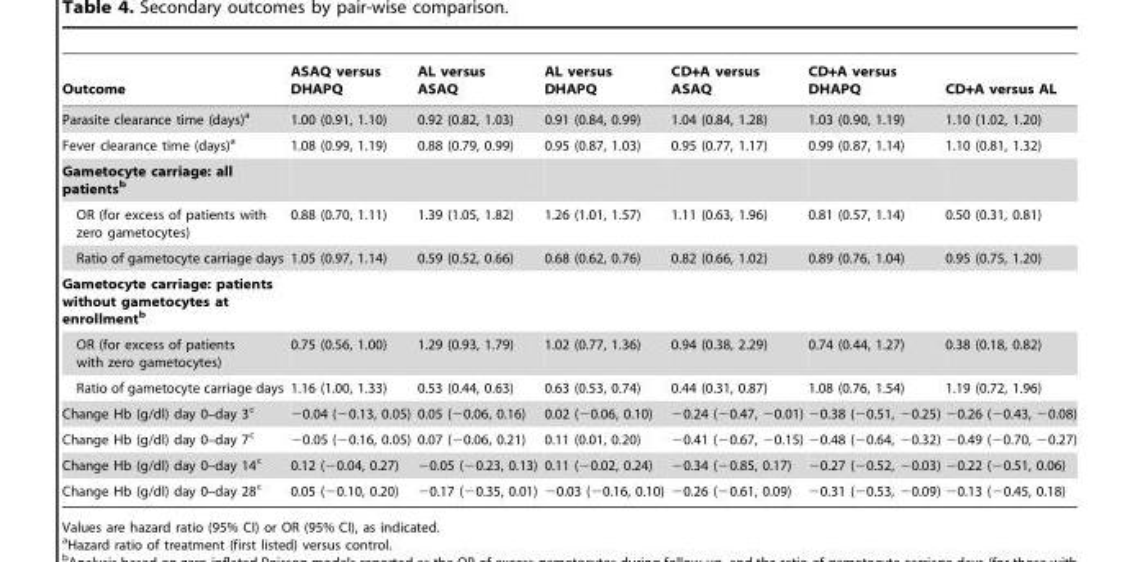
<table><thead><tr><td>Outcome</td><td>ASAQ versus DHAPQ</td><td>AL versus ASAQ</td><td>AL versus DHAPQ</td><td>CD+A versus ASAQ</td><td>CD+A versus DHAPQ</td><td>CD+A versus AL</td></tr></thead><tbody><tr><td>Parasite clearance time (days)<sup>a</sup></td><td>1.00 (0.91, 1.10)</td><td>0.92 (0.82, 1.03)</td><td>0.91 (0.84, 0.99)</td><td>1.04 (0.84, 1.28)</td><td>1.03 (0.90, 1.19)</td><td>1.10 (1.02, 1.20)</td></tr><tr><td>Fever clearance time (days)<sup>a</sup></td><td>1.08 (0.99, 1.19)</td><td>0.88 (0.79, 0.99)</td><td>0.95 (0.87, 1.03)</td><td>0.95 (0.77, 1.17)</td><td>0.99 (0.87, 1.14)</td><td>1.10 (0.81, 1.32)</td></tr><tr><td colspan="7">Gametocyte carriage: all patientsb</td></tr><tr><td>OR (for excess of patients with zero gametocytes)</td><td>0.88 (0.70, 1.11)</td><td>1.39 (1.05, 1.82)</td><td>1.26 (1.01, 1.57)</td><td>1.11 (0.63, 1.96)</td><td>0.81 (0.57, 1.14)</td><td>0.50 (0.31, 0.81)</td></tr><tr><td>Ratio of gametocyte carriage days</td><td>1.05 (0.97, 1.14)</td><td>0.59 (0.52, 0.66)</td><td>0.68 (0.62, 0.76)</td><td>0.82 (0.66, 1.02)</td><td>0.89 (0.76, 1.04)</td><td>0.95 (0.75, 1.20)</td></tr><tr><td colspan="7">Gametocyte carriage: patients without gametocytes at enrollmentb</td></tr><tr><td>OR (for excess of patients with zero gametocytes)</td><td>0.75 (0.56, 1.00)</td><td>1.29 (0.93, 1.79)</td><td>1.02 (0.77, 1.36)</td><td>0.94 (0.38, 2.29)</td><td>0.74 (0.44, 1.27)</td><td>0.38 (0.18, 0.82)</td></tr><tr><td>Ratio of gametocyte carriage days</td><td>1.16 (1.00, 1.33)</td><td>0.53 (0.44, 0.63)</td><td>0.63 (0.53, 0.74)</td><td>0.44 (0.31, 0.87)</td><td>1.08 (0.76, 1.54)</td><td>1.19 (0.72, 1.96)</td></tr><tr><td>Change Hb (g/dl) day 0–day 3<sup>c</sup></td><td>−0.04 (−0.13, 0.05)</td><td>0.05 (−0.06, 0.16)</td><td>0.02 (−0.06, 0.10)</td><td>−0.24 (−0.47, −0.01)</td><td>−0.38 (−0.51, −0.25)</td><td>−0.26 (−0.43, −0.08)</td></tr><tr><td>Change Hb (g/dl) day 0–day 7<sup>c</sup></td><td>−0.05 (−0.16, 0.05)</td><td>0.07 (−0.06, 0.21)</td><td>0.11 (0.01, 0.20)</td><td>−0.41 (−0.67, −0.15)</td><td>−0.48 (−0.64, −0.32)</td><td>−0.49 (−0.70, −0.27)</td></tr><tr><td>Change Hb (g/dl) day 0–day 14<sup>c</sup></td><td>0.12 (−0.04, 0.27)</td><td>−0.05 (−0.23, 0.13)</td><td>0.11 (−0.02, 0.24)</td><td>−0.34 (−0.85, 0.17)</td><td>−0.27 (−0.52, −0.03)</td><td>−0.22 (−0.51, 0.06)</td></tr><tr><td>Change Hb (g/dl) day 0–day 28<sup>c</sup></td><td>0.05 (−0.10, 0.20)</td><td>−0.17 (−0.35, 0.01)</td><td>−0.03 (−0.16, 0.10)</td><td>−0.26 (−0.61, 0.09)</td><td>−0.31 (−0.53, −0.09)</td><td>−0.13 (−0.45, 0.18)</td></tr></tbody></table>